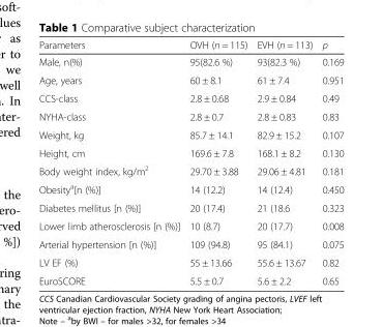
<table><thead><tr><td>Parameters</td><td>OVH (n = 115)</td><td>EVH (n = 113)</td><td>р</td></tr></thead><tbody><tr><td>Male, n(%)</td><td>95(82.6 %)</td><td>93(82.3 %)</td><td>0.169</td></tr><tr><td>Age, years</td><td>60 ± 8.1</td><td>61 ± 7.4</td><td>0.951</td></tr><tr><td>CCS-class</td><td>2.8 ± 0.68</td><td>2.9 ± 0.84</td><td>0.49</td></tr><tr><td>NYHA-class</td><td>2.8 ± 0.7</td><td>2.8 ± 0.83</td><td>0.83</td></tr><tr><td>Weight, kg</td><td>85.7 ± 14.1</td><td>82.9 ± 15.2</td><td>0.107</td></tr><tr><td>Height, cm</td><td>169.6 ± 7.8</td><td>168.1 ± 8.2</td><td>0.130</td></tr><tr><td>Body weight index, kg/m<sup>2</sup></td><td>29.70 ± 3.88</td><td>29.06 ± 4.81</td><td>0.181</td></tr><tr><td>Obesity<sup>a</sup>[n (%)]</td><td>14 (12.2)</td><td>14 (12.4)</td><td>0.450</td></tr><tr><td>Diabetes mellitus [n (%)]</td><td>20 (17.4)</td><td>21 (18.6</td><td>0.323</td></tr><tr><td>Lower limb atherosclerosis [n (%)]</td><td>10 (8.7)</td><td>20 (17.7)</td><td>0.008</td></tr><tr><td>Arterial hypertension [n (%)]</td><td>109 (94.8)</td><td>95 (84.1)</td><td>0.075</td></tr><tr><td>LV EF (%)</td><td>55 ± 13.66</td><td>55.6 ± 13.67</td><td>0.82</td></tr><tr><td>EuroSCORE</td><td>5.5 ± 0.7</td><td>5.6 ± 2.2</td><td>0.65</td></tr></tbody></table>